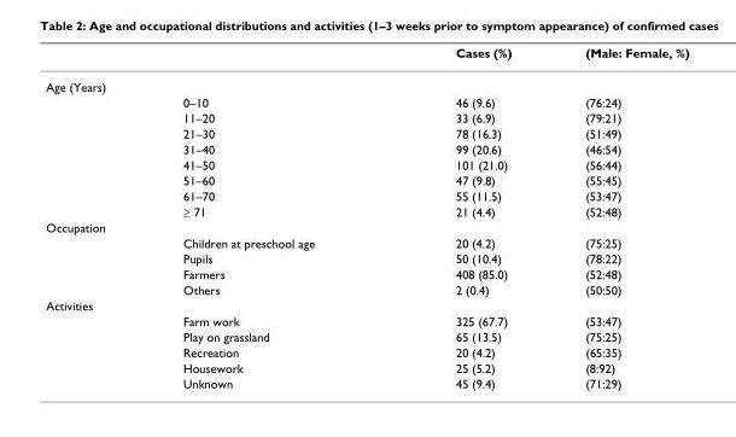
<table><thead><tr><td></td><td></td><td>Cases (%)</td><td>(Male: Female, %)</td></tr></thead><tbody><tr><td colspan="4">Age (Years)</td></tr><tr><td></td><td>0–10</td><td>46 (9.6)</td><td>(76:24)</td></tr><tr><td></td><td>11–20</td><td>33 (6.9)</td><td>(79:21)</td></tr><tr><td></td><td>21–30</td><td>78 (16.3)</td><td>(51:49)</td></tr><tr><td></td><td>31–40</td><td>99 (20.6)</td><td>(46:54)</td></tr><tr><td></td><td>41–50</td><td>101 (21.0)</td><td>(56:44)</td></tr><tr><td></td><td>51–60</td><td>47 (9.8)</td><td>(55:45)</td></tr><tr><td></td><td>61–70</td><td>55 (11.5)</td><td>(53:47)</td></tr><tr><td></td><td>≥ 71</td><td>21 (4.4)</td><td>(52:48)</td></tr><tr><td colspan="4">Occupation</td></tr><tr><td></td><td>Children at preschool age</td><td>20 (4.2)</td><td>(75:25)</td></tr><tr><td></td><td>Pupils</td><td>50 (10.4)</td><td>(78:22)</td></tr><tr><td></td><td>Farmers</td><td>408 (85.0)</td><td>(52:48)</td></tr><tr><td></td><td>Others</td><td>2 (0.4)</td><td>(50:50)</td></tr><tr><td colspan="4">Activities</td></tr><tr><td></td><td>Farm work</td><td>325 (67.7)</td><td>(53:47)</td></tr><tr><td></td><td>Play on grassland</td><td>65 (13.5)</td><td>(75:25)</td></tr><tr><td></td><td>Recreation</td><td>20 (4.2)</td><td>(65:35)</td></tr><tr><td></td><td>Housework</td><td>25 (5.2)</td><td>(8:92)</td></tr><tr><td></td><td>Unknown</td><td>45 (9.4)</td><td>(71:29)</td></tr></tbody></table>